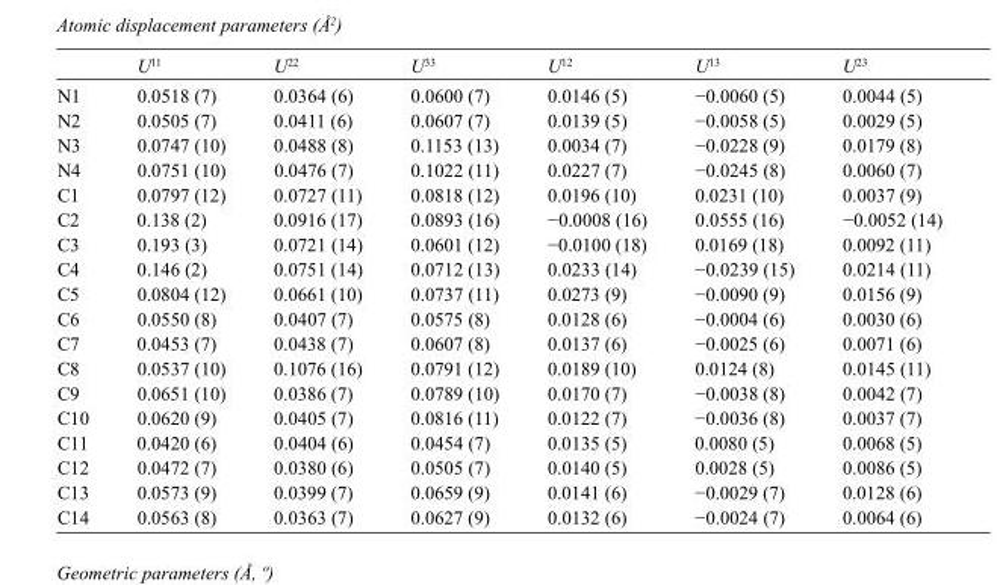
<table><thead><tr><td></td><td>U<sup>11</sup></td><td>U<sup>22</sup></td><td>U<sup>33</sup></td><td>U<sup>12</sup></td><td>U<sup>13</sup></td><td>U<sup>23</sup></td></tr></thead><tbody><tr><td>N1</td><td>0.0518 (7)</td><td>0.0364 (6)</td><td>0.0600 (7)</td><td>0.0146 (5)</td><td>−0.0060 (5)</td><td>0.0044 (5)</td></tr><tr><td>N2</td><td>0.0505 (7)</td><td>0.0411 (6)</td><td>0.0607 (7)</td><td>0.0139 (5)</td><td>−0.0058 (5)</td><td>0.0029 (5)</td></tr><tr><td>N3</td><td>0.0747 (10)</td><td>0.0488 (8)</td><td>0.1153 (13)</td><td>0.0034 (7)</td><td>−0.0228 (9)</td><td>0.0179 (8)</td></tr><tr><td>N4</td><td>0.0751 (10)</td><td>0.0476 (7)</td><td>0.1022 (11)</td><td>0.0227 (7)</td><td>−0.0245 (8)</td><td>0.0060 (7)</td></tr><tr><td>C1</td><td>0.0797 (12)</td><td>0.0727 (11)</td><td>0.0818 (12)</td><td>0.0196 (10)</td><td>0.0231 (10)</td><td>0.0037 (9)</td></tr><tr><td>C2</td><td>0.138 (2)</td><td>0.0916 (17)</td><td>0.0893 (16)</td><td>−0.0008 (16)</td><td>0.0555 (16)</td><td>−0.0052 (14)</td></tr><tr><td>C3</td><td>0.193 (3)</td><td>0.0721 (14)</td><td>0.0601 (12)</td><td>−0.0100 (18)</td><td>0.0169 (18)</td><td>0.0092 (11)</td></tr><tr><td>C4</td><td>0.146 (2)</td><td>0.0751 (14)</td><td>0.0712 (13)</td><td>0.0233 (14)</td><td>−0.0239 (15)</td><td>0.0214 (11)</td></tr><tr><td>C5</td><td>0.0804 (12)</td><td>0.0661 (10)</td><td>0.0737 (11)</td><td>0.0273 (9)</td><td>−0.0090 (9)</td><td>0.0156 (9)</td></tr><tr><td>C6</td><td>0.0550 (8)</td><td>0.0407 (7)</td><td>0.0575 (8)</td><td>0.0128 (6)</td><td>−0.0004 (6)</td><td>0.0030 (6)</td></tr><tr><td>C7</td><td>0.0453 (7)</td><td>0.0438 (7)</td><td>0.0607 (8)</td><td>0.0137 (6)</td><td>−0.0025 (6)</td><td>0.0071 (6)</td></tr><tr><td>C8</td><td>0.0537 (10)</td><td>0.1076 (16)</td><td>0.0791 (12)</td><td>0.0189 (10)</td><td>0.0124 (8)</td><td>0.0145 (11)</td></tr><tr><td>C9</td><td>0.0651 (10)</td><td>0.0386 (7)</td><td>0.0789 (10)</td><td>0.0170 (7)</td><td>−0.0038 (8)</td><td>0.0042 (7)</td></tr><tr><td>C10</td><td>0.0620 (9)</td><td>0.0405 (7)</td><td>0.0816 (11)</td><td>0.0122 (7)</td><td>−0.0036 (8)</td><td>0.0037 (7)</td></tr><tr><td>C11</td><td>0.0420 (6)</td><td>0.0404 (6)</td><td>0.0454 (7)</td><td>0.0135 (5)</td><td>0.0080 (5)</td><td>0.0068 (5)</td></tr><tr><td>C12</td><td>0.0472 (7)</td><td>0.0380 (6)</td><td>0.0505 (7)</td><td>0.0140 (5)</td><td>0.0028 (5)</td><td>0.0086 (5)</td></tr><tr><td>C13</td><td>0.0573 (9)</td><td>0.0399 (7)</td><td>0.0659 (9)</td><td>0.0141 (6)</td><td>−0.0029 (7)</td><td>0.0128 (6)</td></tr><tr><td>C14</td><td>0.0563 (8)</td><td>0.0363 (7)</td><td>0.0627 (9)</td><td>0.0132 (6)</td><td>−0.0024 (7)</td><td>0.0064 (6)</td></tr></tbody></table>